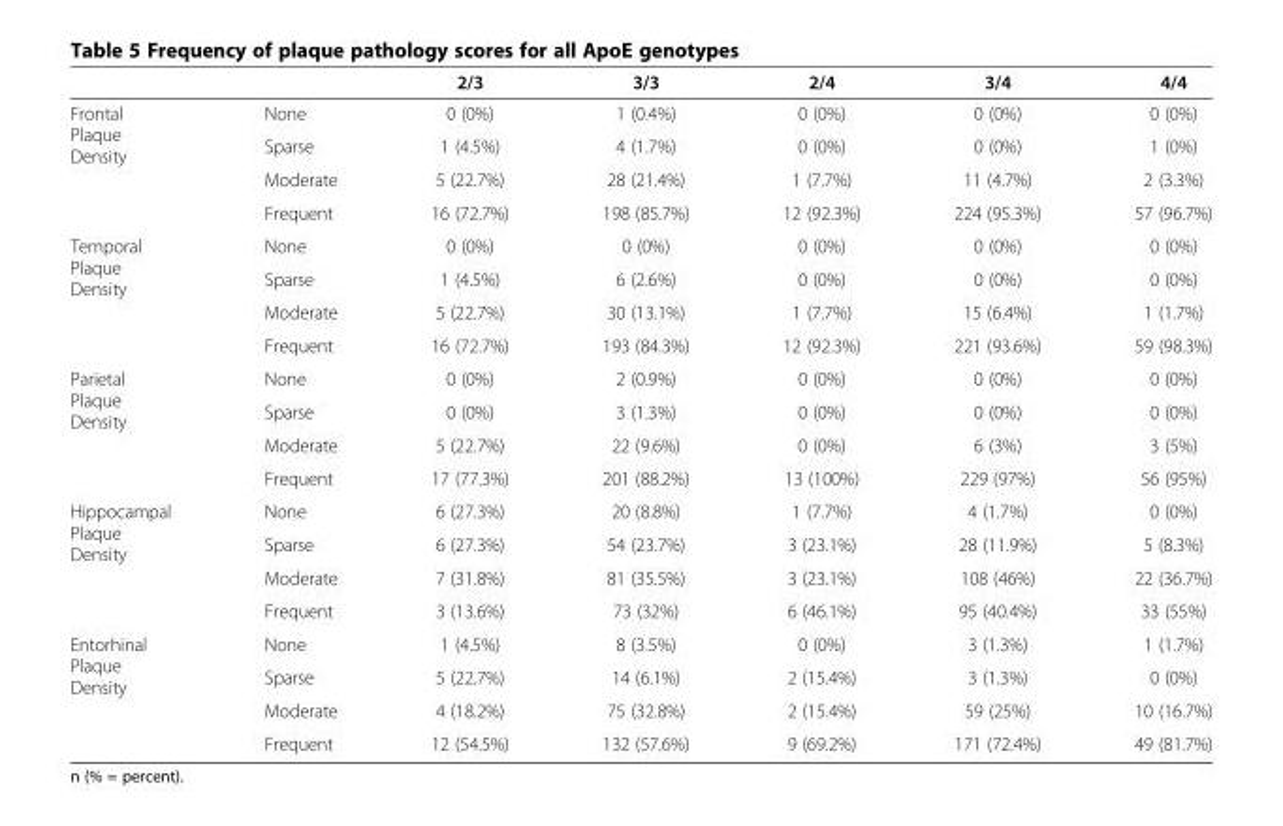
<table><thead><tr><td></td><td></td><td>2/3</td><td>3/3</td><td>2/4</td><td>3/4</td><td>4/4</td></tr></thead><tbody><tr><td rowspan="4">Frontal Plaque Density</td><td>None</td><td>0 (0%)</td><td>1 (0.4%)</td><td>0 (0%)</td><td>0 (0%)</td><td>0 (0%)</td></tr><tr><td>Sparse</td><td>1 (4.5%)</td><td>4 (1.7%)</td><td>0 (0%)</td><td>0 (0%)</td><td>1 (0%)</td></tr><tr><td>Moderate</td><td>5 (22.7%)</td><td>28 (21.4%)</td><td>1 (7.7%)</td><td>11 (4.7%)</td><td>2 (3.3%)</td></tr><tr><td>Frequent</td><td>16 (72.7%)</td><td>198 (85.7%)</td><td>12 (92.3%)</td><td>224 (95.3%)</td><td>57 (96.7%)</td></tr><tr><td rowspan="4">Temporal Plaque Density</td><td>None</td><td>0 (0%)</td><td>0 (0%)</td><td>0 (0%)</td><td>0 (0%)</td><td>0 (0%)</td></tr><tr><td>Sparse</td><td>1 (4.5%)</td><td>6 (2.6%)</td><td>0 (0%)</td><td>0 (0%)</td><td>0 (0%)</td></tr><tr><td>Moderate</td><td>5 (22.7%)</td><td>30 (13.1%)</td><td>1 (7.7%)</td><td>15 (6.4%)</td><td>1 (1.7%)</td></tr><tr><td>Frequent</td><td>16 (72.7%)</td><td>193 (84.3%)</td><td>12 (92.3%)</td><td>221 (93.6%)</td><td>59 (98.3%)</td></tr><tr><td rowspan="4">Parietal Plaque Density</td><td>None</td><td>0 (0%)</td><td>2 (0.9%)</td><td>0 (0%)</td><td>0 (0%)</td><td>0 (0%)</td></tr><tr><td>Sparse</td><td>0 (0%)</td><td>3 (1.3%)</td><td>0 (0%)</td><td>0 (0%)</td><td>0 (0%)</td></tr><tr><td>Moderate</td><td>5 (22.7%)</td><td>22 (9.6%)</td><td>0 (0%)</td><td>6 (3%)</td><td>3 (5%)</td></tr><tr><td>Frequent</td><td>17 (77.3%)</td><td>201 (88.2%)</td><td>13 (100%)</td><td>229 (97%)</td><td>56 (95%)</td></tr><tr><td rowspan="4">Hippocampal Plaque Density</td><td>None</td><td>6 (27.3%)</td><td>20 (8.8%)</td><td>1 (7.7%)</td><td>4 (1.7%)</td><td>0 (0%)</td></tr><tr><td>Sparse</td><td>6 (27.3%)</td><td>54 (23.7%)</td><td>3 (23.1%)</td><td>28 (11.9%)</td><td>5 (8.3%)</td></tr><tr><td>Moderate</td><td>7 (31.8%)</td><td>81 (35.5%)</td><td>3 (23.1%)</td><td>108 (46%)</td><td>22 (36.7%)</td></tr><tr><td>Frequent</td><td>3 (13.6%)</td><td>73 (32%)</td><td>6 (46.1%)</td><td>95 (40.4%)</td><td>33 (55%)</td></tr><tr><td rowspan="4">Entorhinal Plaque Density</td><td>None</td><td>1 (4.5%)</td><td>8 (3.5%)</td><td>0 (0%)</td><td>3 (1.3%)</td><td>1 (1.7%)</td></tr><tr><td>Sparse</td><td>5 (22.7%)</td><td>14 (6.1%)</td><td>2 (15.4%)</td><td>3 (1.3%)</td><td>0 (0%)</td></tr><tr><td>Moderate</td><td>4 (18.2%)</td><td>75 (32.8%)</td><td>2 (15.4%)</td><td>59 (25%)</td><td>10 (16.7%)</td></tr><tr><td>Frequent</td><td>12 (54.5%)</td><td>132 (57.6%)</td><td>9 (69.2%)</td><td>171 (72.4%)</td><td>49 (81.7%)</td></tr></tbody></table>